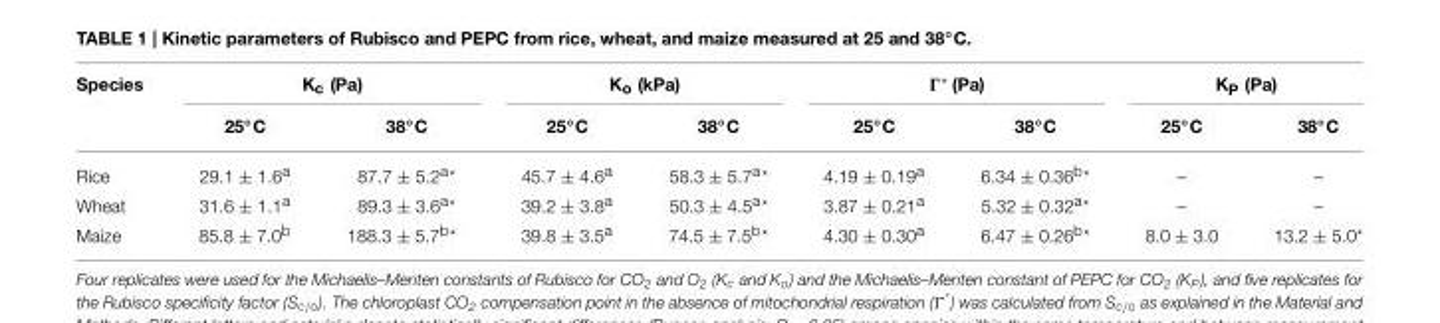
<table><thead><tr><td rowspan="2">Species</td><td colspan="2">K<sub>c</sub> (Pa)</td><td colspan="2">K<sub>o</sub> (kPa)</td><td colspan="2">Ŵ* (Pa)</td><td colspan="2">K<sub>P</sub> (Pa)</td></tr><tr><td>25◦C</td><td>38◦C</td><td>25◦C</td><td>38◦C</td><td>25◦C</td><td>38◦C</td><td>25◦C</td><td>38◦C</td></tr></thead><tbody><tr><td>Rice</td><td>29.1 ± 1.6<sup>a</sup></td><td>87.7 ± 5.2<sup>a*</sup></td><td>45.7 ± 4.6<sup>a</sup></td><td>58.3 ± 5.7<sup>a*</sup></td><td>4.19 ± 0.19<sup>a</sup></td><td>6.34 ± 0.36<sup>b*</sup></td><td>–</td><td>–</td></tr><tr><td>Wheat</td><td>31.6 ± 1.1<sup>a</sup></td><td>89.3 ± 3.6<sup>a*</sup></td><td>39.2 ± 3.8<sup>a</sup></td><td>50.3 ± 4.5<sup>a*</sup></td><td>3.87 ± 0.21<sup>a</sup></td><td>5.32 ± 0.32<sup>a*</sup></td><td>–</td><td>–</td></tr><tr><td>Maize</td><td>85.8 ± 7.0<sup>b</sup></td><td>188.3 ± 5.7<sup>b*</sup></td><td>39.8 ± 3.5<sup>a</sup></td><td>74.5 ± 7.5<sup>b*</sup></td><td>4.30 ± 0.30<sup>a</sup></td><td>6.47 ± 0.26<sup>b*</sup></td><td>8.0 ± 3.0</td><td>13.2 ± 5.0*</td></tr></tbody></table>